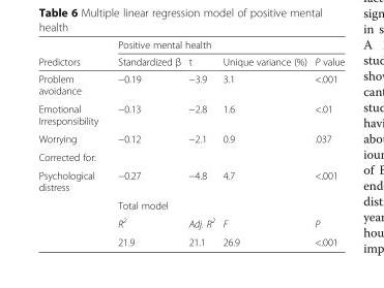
<table><thead><tr><td rowspan="2">Predictors</td><td colspan="4">Positive mental health</td></tr><tr><td>Standardized β</td><td>t</td><td>Unique variance (%)</td><td>P value</td></tr></thead><tbody><tr><td>Problem avoidance</td><td>−0.19</td><td>−3.9</td><td>3.1</td><td>&lt;.001</td></tr><tr><td>Emotional Irresponsibility</td><td>−0.13</td><td>−2.8</td><td>1.6</td><td>&lt;.01</td></tr><tr><td>Worrying</td><td>−0.12</td><td>−2.1</td><td>0.9</td><td>.037</td></tr><tr><td colspan="5">Corrected for:</td></tr><tr><td rowspan="4">Psychological distress</td><td>−0.27</td><td>−4.8</td><td>4.7</td><td>&lt;.001</td></tr><tr><td>Total model</td><td></td><td></td><td></td></tr><tr><td>R<sup>2</sup></td><td>Adj. R<sup>2</sup></td><td>F</td><td>P</td></tr><tr><td>21.9</td><td>21.1</td><td>26.9</td><td>&lt;.001</td></tr></tbody></table>